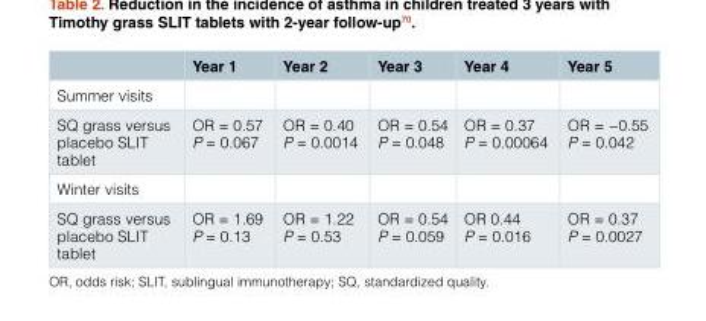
<table><thead><tr><td></td><td>Year 1</td><td>Year 2</td><td>Year 3</td><td>Year 4</td><td>Year 5</td></tr></thead><tbody><tr><td colspan="6">Summer visits</td></tr><tr><td>SQ grass versus placebo SLIT tablet</td><td>OR = 0.57 P = 0.067</td><td>OR = 0.40 P = 0.0014</td><td>OR = 0.54 P = 0.048</td><td>OR = 0.37 P = 0.00064</td><td>OR = −0.55 P = 0.042</td></tr><tr><td colspan="6">Winter visits</td></tr><tr><td>SQ grass versus placebo SLIT tablet</td><td>OR = 1.69 P = 0.13</td><td>OR = 1.22 P = 0.53</td><td>OR = 0.54 P = 0.059</td><td>OR 0.44 P = 0.016</td><td>OR = 0.37 P = 0.0027</td></tr></tbody></table>